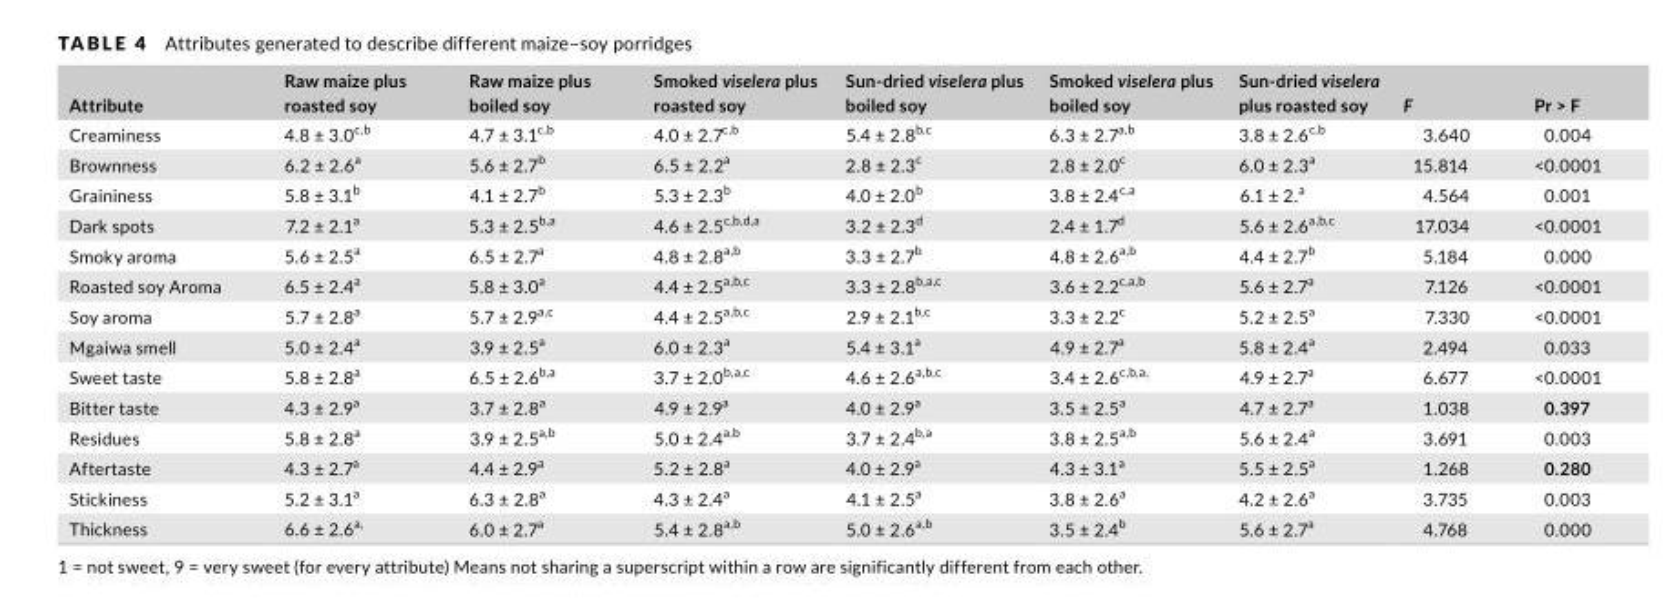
<table><thead><tr><td>Attribute</td><td>Raw maize plus roasted soy</td><td>Raw maize plus boiled soy</td><td>Smoked viselera plus roasted soy</td><td>Sun- dried viselera plus boiled soy</td><td>Smoked viselera plus boiled soy</td><td>Sun- dried viselera plus roasted soy</td><td>F</td><td>Pr &gt; F</td></tr></thead><tbody><tr><td>Creaminess</td><td>4.8 ± 3.0<sup>c,b</sup></td><td>4.7 ± 3.1<sup>c,b</sup></td><td>4.0 ± 2.7<sup>c,b</sup></td><td>5.4 ± 2.8<sup>b,c</sup></td><td>6.3 ± 2.7<sup>a,b</sup></td><td>3.8 ± 2.6<sup>c,b</sup></td><td>3.640</td><td>0.004</td></tr><tr><td>Brownness</td><td>6.2 ± 2.6<sup>a</sup></td><td>5.6 ± 2.7<sup>b</sup></td><td>6.5 ± 2.2<sup>a</sup></td><td>2.8 ± 2.3<sup>c</sup></td><td>2.8 ± 2.0<sup>c</sup></td><td>6.0 ± 2.3<sup>a</sup></td><td>15.814</td><td>&lt;0.0001</td></tr><tr><td>Graininess</td><td>5.8 ± 3.1<sup>b</sup></td><td>4.1 ± 2.7<sup>b</sup></td><td>5.3 ± 2.3<sup>b</sup></td><td>4.0 ± 2.0<sup>b</sup></td><td>3.8 ± 2.4<sup>c,a</sup></td><td>6.1 ± 2.<sup>a</sup></td><td>4.564</td><td>0.001</td></tr><tr><td>Dark spots</td><td>7.2 ± 2.1<sup>a</sup></td><td>5.3 ± 2.5<sup>b,a</sup></td><td>4.6 ± 2.5<sup>c,b,d,a</sup></td><td>3.2 ± 2.3<sup>d</sup></td><td>2.4 ± 1.7<sup>d</sup></td><td>5.6 ± 2.6<sup>a,b,c</sup></td><td>17.034</td><td>&lt;0.0001</td></tr><tr><td>Smoky aroma</td><td>5.6 ± 2.5<sup>a</sup></td><td>6.5 ± 2.7<sup>a</sup></td><td>4.8 ± 2.8<sup>a,b</sup></td><td>3.3 ± 2.7<sup>b</sup></td><td>4.8 ± 2.6<sup>a,b</sup></td><td>4.4 ± 2.7<sup>b</sup></td><td>5.184</td><td>0.000</td></tr><tr><td>Roasted soy Aroma</td><td>6.5 ± 2.4<sup>a</sup></td><td>5.8 ± 3.0<sup>a</sup></td><td>4.4 ± 2.5<sup>a,b,c</sup></td><td>3.3 ± 2.8<sup>b,a,c</sup></td><td>3.6 ± 2.2<sup>c,a,b</sup></td><td>5.6 ± 2.7<sup>a</sup></td><td>7.126</td><td>&lt;0.0001</td></tr><tr><td>Soy aroma</td><td>5.7 ± 2.8<sup>a</sup></td><td>5.7 ± 2.9<sup>a,c</sup></td><td>4.4 ± 2.5<sup>a,b,c</sup></td><td>2.9 ± 2.1<sup>b,c</sup></td><td>3.3 ± 2.2<sup>c</sup></td><td>5.2 ± 2.5<sup>a</sup></td><td>7.330</td><td>&lt;0.0001</td></tr><tr><td>Mgaiwa smell</td><td>5.0 ± 2.4<sup>a</sup></td><td>3.9 ± 2.5<sup>a</sup></td><td>6.0 ± 2.3<sup>a</sup></td><td>5.4 ± 3.1<sup>a</sup></td><td>4.9 ± 2.7<sup>a</sup></td><td>5.8 ± 2.4<sup>a</sup></td><td>2.494</td><td>0.033</td></tr><tr><td>Sweet taste</td><td>5.8 ± 2.8<sup>a</sup></td><td>6.5 ± 2.6<sup>b,a</sup></td><td>3.7 ± 2.0<sup>b,a,c</sup></td><td>4.6 ± 2.6<sup>a,b,c</sup></td><td>3.4 ± 2.6<sup>c,b,a,</sup></td><td>4.9 ± 2.7<sup>a</sup></td><td>6.677</td><td>&lt;0.0001</td></tr><tr><td>Bitter taste</td><td>4.3 ± 2.9<sup>a</sup></td><td>3.7 ± 2.8<sup>a</sup></td><td>4.9 ± 2.9<sup>a</sup></td><td>4.0 ± 2.9<sup>a</sup></td><td>3.5 ± 2.5<sup>a</sup></td><td>4.7 ± 2.7<sup>a</sup></td><td>1.038</td><td>0.397</td></tr><tr><td>Residues</td><td>5.8 ± 2.8<sup>a</sup></td><td>3.9 ± 2.5<sup>a,b</sup></td><td>5.0 ± 2.4<sup>a,b</sup></td><td>3.7 ± 2.4<sup>b,a</sup></td><td>3.8 ± 2.5<sup>a,b</sup></td><td>5.6 ± 2.4<sup>a</sup></td><td>3.691</td><td>0.003</td></tr><tr><td>Aftertaste</td><td>4.3 ± 2.7<sup>a</sup></td><td>4.4 ± 2.9<sup>a</sup></td><td>5.2 ± 2.8<sup>a</sup></td><td>4.0 ± 2.9<sup>a</sup></td><td>4.3 ± 3.1<sup>a</sup></td><td>5.5 ± 2.5<sup>a</sup></td><td>1.268</td><td>0.280</td></tr><tr><td>Stickiness</td><td>5.2 ± 3.1<sup>a</sup></td><td>6.3 ± 2.8<sup>a</sup></td><td>4.3 ± 2.4<sup>a</sup></td><td>4.1 ± 2.5<sup>a</sup></td><td>3.8 ± 2.6<sup>a</sup></td><td>4.2 ± 2.6<sup>a</sup></td><td>3.735</td><td>0.003</td></tr><tr><td>Thickness</td><td>6.6 ± 2.6<sup>a,</sup></td><td>6.0 ± 2.7<sup>a</sup></td><td>5.4 ± 2.8<sup>a,b</sup></td><td>5.0 ± 2.6<sup>a,b</sup></td><td>3.5 ± 2.4<sup>b</sup></td><td>5.6 ± 2.7<sup>a</sup></td><td>4.768</td><td>0.000</td></tr></tbody></table>